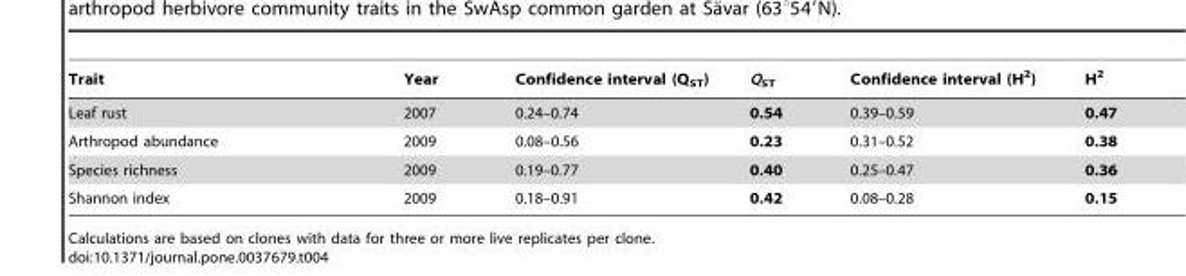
<table><thead><tr><td>Trait</td><td>Year</td><td>Confidence interval (Q<sub>ST</sub>)</td><td>Q<sub>ST</sub></td><td>Confidence interval (H<sup>2</sup>)</td><td>H<sup>2</sup></td></tr></thead><tbody><tr><td>Leaf rust</td><td>2007</td><td>0.24–0.74</td><td>0.54</td><td>0.39–0.59</td><td>0.47</td></tr><tr><td>Arthropod abundance</td><td>2009</td><td>0.08–0.56</td><td>0.23</td><td>0.31–0.52</td><td>0.38</td></tr><tr><td>Species richness</td><td>2009</td><td>0.19–0.77</td><td>0.40</td><td>0.25–0.47</td><td>0.36</td></tr><tr><td>Shannon index</td><td>2009</td><td>0.18–0.91</td><td>0.42</td><td>0.08–0.28</td><td>0.15</td></tr></tbody></table>